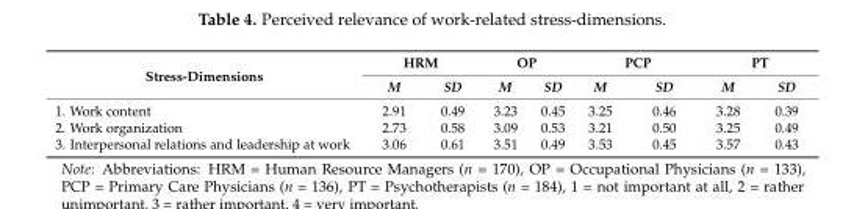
<table><thead><tr><td rowspan="2">Stress-Dimensions</td><td colspan="2">HRM</td><td colspan="2">OP</td><td colspan="2">PCP</td><td colspan="2">PT</td></tr><tr><td>M</td><td>SD</td><td>M</td><td>SD</td><td>M</td><td>SD</td><td>M</td><td>SD</td></tr></thead><tbody><tr><td>1. Work content</td><td>2.91</td><td>0.49</td><td>3.23</td><td>0.45</td><td>3.25</td><td>0.46</td><td>3.28</td><td>0.39</td></tr><tr><td>2. Work organization</td><td>2.73</td><td>0.58</td><td>3.09</td><td>0.53</td><td>3.21</td><td>0.50</td><td>3.25</td><td>0.49</td></tr><tr><td>3. Interpersonal relations and leadership at work</td><td>3.06</td><td>0.61</td><td>3.51</td><td>0.49</td><td>3.53</td><td>0.45</td><td>3.57</td><td>0.43</td></tr></tbody></table>